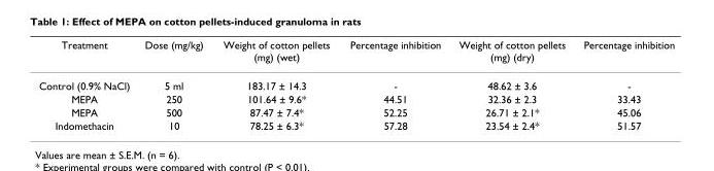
<table><thead><tr><td>Treatment</td><td>Dose (mg/kg)</td><td>Weight of cotton pellets (mg) (wet)</td><td>Percentage inhibition</td><td>Weight of cotton pellets (mg) (dry)</td><td>Percentage inhibition</td></tr></thead><tbody><tr><td>Control (0.9% NaCl)</td><td>5 ml</td><td>183.17 ± 14.3</td><td>-</td><td>48.62 ± 3.6</td><td>-</td></tr><tr><td>MEPA</td><td>250</td><td>101.64 ± 9.6*</td><td>44.51</td><td>32.36 ± 2.3</td><td>33.43</td></tr><tr><td>MEPA</td><td>500</td><td>87.47 ± 7.4*</td><td>52.25</td><td>26.71 ± 2.1*</td><td>45.06</td></tr><tr><td>Indomethacin</td><td>10</td><td>78.25 ± 6.3*</td><td>57.28</td><td>23.54 ± 2.4*</td><td>51.57</td></tr></tbody></table>